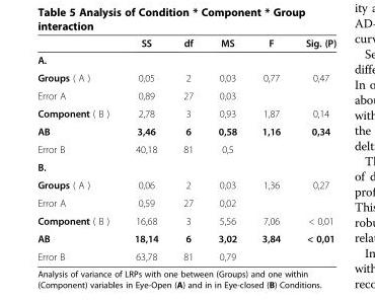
<table><thead><tr><td></td><td>SS</td><td>df</td><td>MS</td><td>F</td><td>Sig. (P)</td></tr></thead><tbody><tr><td colspan="6">A.</td></tr><tr><td>Groups ( A )</td><td>0,05</td><td>2</td><td>0,03</td><td>0,77</td><td>0,47</td></tr><tr><td>Error A</td><td>0,89</td><td>27</td><td>0,03</td><td></td><td></td></tr><tr><td>Component ( B )</td><td>2,78</td><td>3</td><td>0,93</td><td>1,87</td><td>0,14</td></tr><tr><td>AB</td><td>3,46</td><td>6</td><td>0,58</td><td>1,16</td><td>0,34</td></tr><tr><td>Error B</td><td>40,18</td><td>81</td><td>0,5</td><td></td><td></td></tr><tr><td colspan="6">B.</td></tr><tr><td>Groups ( A )</td><td>0,06</td><td>2</td><td>0,03</td><td>1,36</td><td>0,27</td></tr><tr><td>Error A</td><td>0,59</td><td>27</td><td>0,02</td><td></td><td></td></tr><tr><td>Component ( B )</td><td>16,68</td><td>3</td><td>5,56</td><td>7,06</td><td>&lt; 0,01</td></tr><tr><td>AB</td><td>18,14</td><td>6</td><td>3,02</td><td>3,84</td><td>&lt; 0,01</td></tr><tr><td>Error B</td><td>63,78</td><td>81</td><td>0,79</td><td></td><td></td></tr></tbody></table>